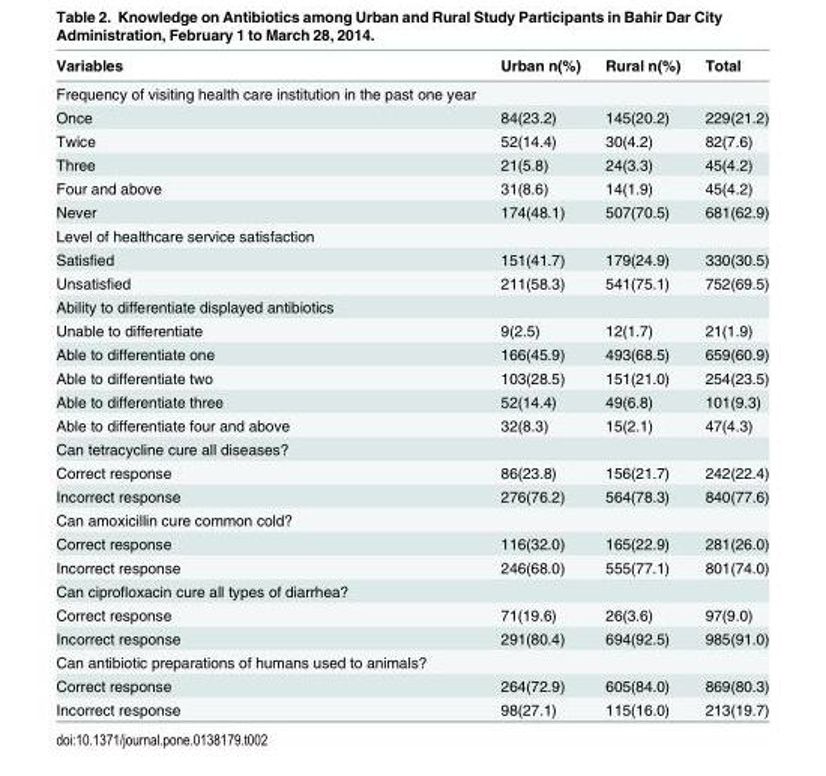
<table><thead><tr><td>Variables</td><td>Urban n(%)</td><td>Rural n(%)</td><td>Total</td></tr></thead><tbody><tr><td colspan="4">Frequency of visiting health care institution in the past one year</td></tr><tr><td>Once</td><td>84(23.2)</td><td>145(20.2)</td><td>229(21.2)</td></tr><tr><td>Twice</td><td>52(14.4)</td><td>30(4.2)</td><td>82(7.6)</td></tr><tr><td>Three</td><td>21(5.8)</td><td>24(3.3)</td><td>45(4.2)</td></tr><tr><td>Four and above</td><td>31(8.6)</td><td>14(1.9)</td><td>45(4.2)</td></tr><tr><td>Never</td><td>174(48.1)</td><td>507(70.5)</td><td>681(62.9)</td></tr><tr><td colspan="4">Level of healthcare service satisfaction</td></tr><tr><td>Satisfied</td><td>151(41.7)</td><td>179(24.9)</td><td>330(30.5)</td></tr><tr><td>Unsatisfied</td><td>211(58.3)</td><td>541(75.1)</td><td>752(69.5)</td></tr><tr><td colspan="4">Ability to differentiate displayed antibiotics</td></tr><tr><td>Unable to differentiate</td><td>9(2.5)</td><td>12(1.7)</td><td>21(1.9)</td></tr><tr><td>Able to differentiate one</td><td>166(45.9)</td><td>493(68.5)</td><td>659(60.9)</td></tr><tr><td>Able to differentiate two</td><td>103(28.5)</td><td>151(21.0)</td><td>254(23.5)</td></tr><tr><td>Able to differentiate three</td><td>52(14.4)</td><td>49(6.8)</td><td>101(9.3)</td></tr><tr><td>Able to differentiate four and above</td><td>32(8.3)</td><td>15(2.1)</td><td>47(4.3)</td></tr><tr><td colspan="4">Can tetracycline cure all diseases?</td></tr><tr><td>Correct response</td><td>86(23.8)</td><td>156(21.7)</td><td>242(22.4)</td></tr><tr><td>Incorrect response</td><td>276(76.2)</td><td>564(78.3)</td><td>840(77.6)</td></tr><tr><td colspan="4">Can amoxicillin cure common cold?</td></tr><tr><td>Correct response</td><td>116(32.0)</td><td>165(22.9)</td><td>281(26.0)</td></tr><tr><td>Incorrect response</td><td>246(68.0)</td><td>555(77.1)</td><td>801(74.0)</td></tr><tr><td colspan="4">Can ciprofloxacin cure all types of diarrhea?</td></tr><tr><td>Correct response</td><td>71(19.6)</td><td>26(3.6)</td><td>97(9.0)</td></tr><tr><td>Incorrect response</td><td>291(80.4)</td><td>694(92.5)</td><td>985(91.0)</td></tr><tr><td colspan="4">Can antibiotic preparations of humans used to animals?</td></tr><tr><td>Correct response</td><td>264(72.9)</td><td>605(84.0)</td><td>869(80.3)</td></tr><tr><td>Incorrect response</td><td>98(27.1)</td><td>115(16.0)</td><td>213(19.7)</td></tr></tbody></table>